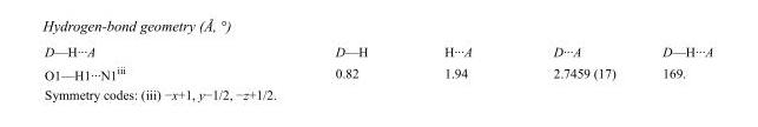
<table><tbody><tr><td>D—H···A</td><td>D—H</td><td>H···A</td><td>D···A</td><td>D—H···A</td></tr><tr><td>O1—H1···N1<sup>iii</sup></td><td>0.82</td><td>1.94</td><td>2.7459 (17)</td><td>169.</td></tr></tbody></table>